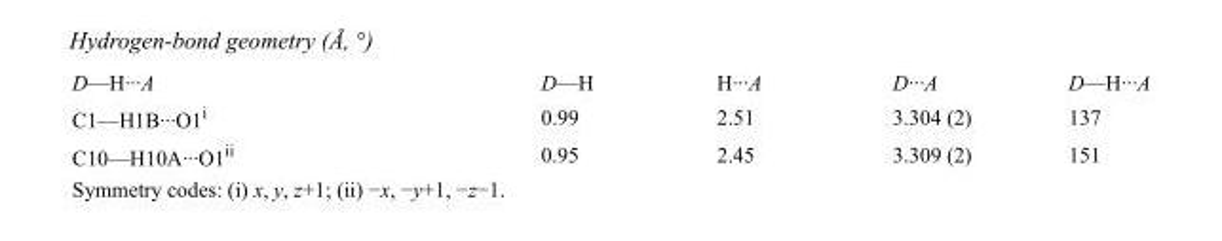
<table><tbody><tr><td>D—H···A</td><td>D—H</td><td>H···A</td><td>D···A</td><td>D—H···A</td></tr><tr><td>C1—H1B···O1<sup>i</sup></td><td>0.99</td><td>2.51</td><td>3.304 (2)</td><td>137</td></tr><tr><td>C10—H10A···O1<sup>ii</sup></td><td>0.95</td><td>2.45</td><td>3.309 (2)</td><td>151</td></tr></tbody></table>